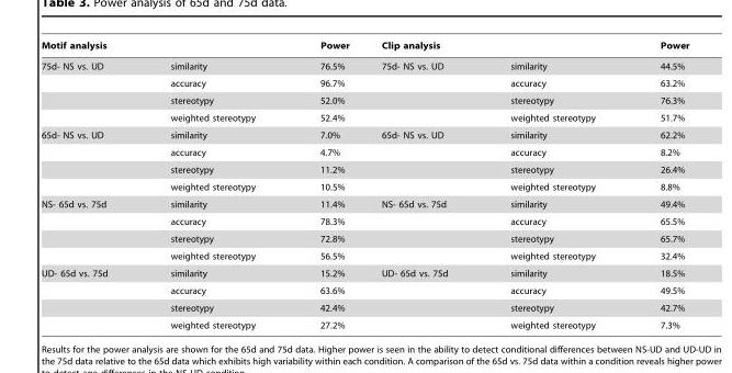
<table><thead><tr><td>Motif analysis</td><td></td><td>Power</td><td>Clip analysis</td><td></td><td>Power</td></tr></thead><tbody><tr><td rowspan="4">75d- NS vs. UD</td><td>similarity</td><td>76.5%</td><td>75d- NS vs. UD</td><td>similarity</td><td>44.5%</td></tr><tr><td>accuracy</td><td>96.7%</td><td></td><td>accuracy</td><td>63.2%</td></tr><tr><td>stereotypy</td><td>52.0%</td><td></td><td>stereotypy</td><td>76.3%</td></tr><tr><td>weighted stereotypy</td><td>52.4%</td><td></td><td>weighted stereotypy</td><td>51.7%</td></tr><tr><td rowspan="4">65d- NS vs. UD</td><td>similarity</td><td>7.0%</td><td>65d- NS vs. UD</td><td>similarity</td><td>62.2%</td></tr><tr><td>accuracy</td><td>4.7%</td><td></td><td>accuracy</td><td>8.2%</td></tr><tr><td>stereotypy</td><td>11.2%</td><td></td><td>stereotypy</td><td>26.4%</td></tr><tr><td>weighted stereotypy</td><td>10.5%</td><td></td><td>weighted stereotypy</td><td>8.8%</td></tr><tr><td rowspan="4">NS- 65d vs. 75d</td><td>similarity</td><td>11.4%</td><td>NS- 65d vs. 75d</td><td>similarity</td><td>49.4%</td></tr><tr><td>accuracy</td><td>78.3%</td><td></td><td>accuracy</td><td>65.5%</td></tr><tr><td>stereotypy</td><td>72.8%</td><td></td><td>stereotypy</td><td>65.7%</td></tr><tr><td>weighted stereotypy</td><td>56.5%</td><td></td><td>weighted stereotypy</td><td>32.4%</td></tr><tr><td rowspan="4">UD- 65d vs. 75d</td><td>similarity</td><td>15.2%</td><td>UD- 65d vs. 75d</td><td>similarity</td><td>18.5%</td></tr><tr><td>accuracy</td><td>63.6%</td><td></td><td>accuracy</td><td>49.5%</td></tr><tr><td>stereotypy</td><td>42.4%</td><td></td><td>stereotypy</td><td>42.7%</td></tr><tr><td>weighted stereotypy</td><td>27.2%</td><td></td><td>weighted stereotypy</td><td>7.3%</td></tr></tbody></table>